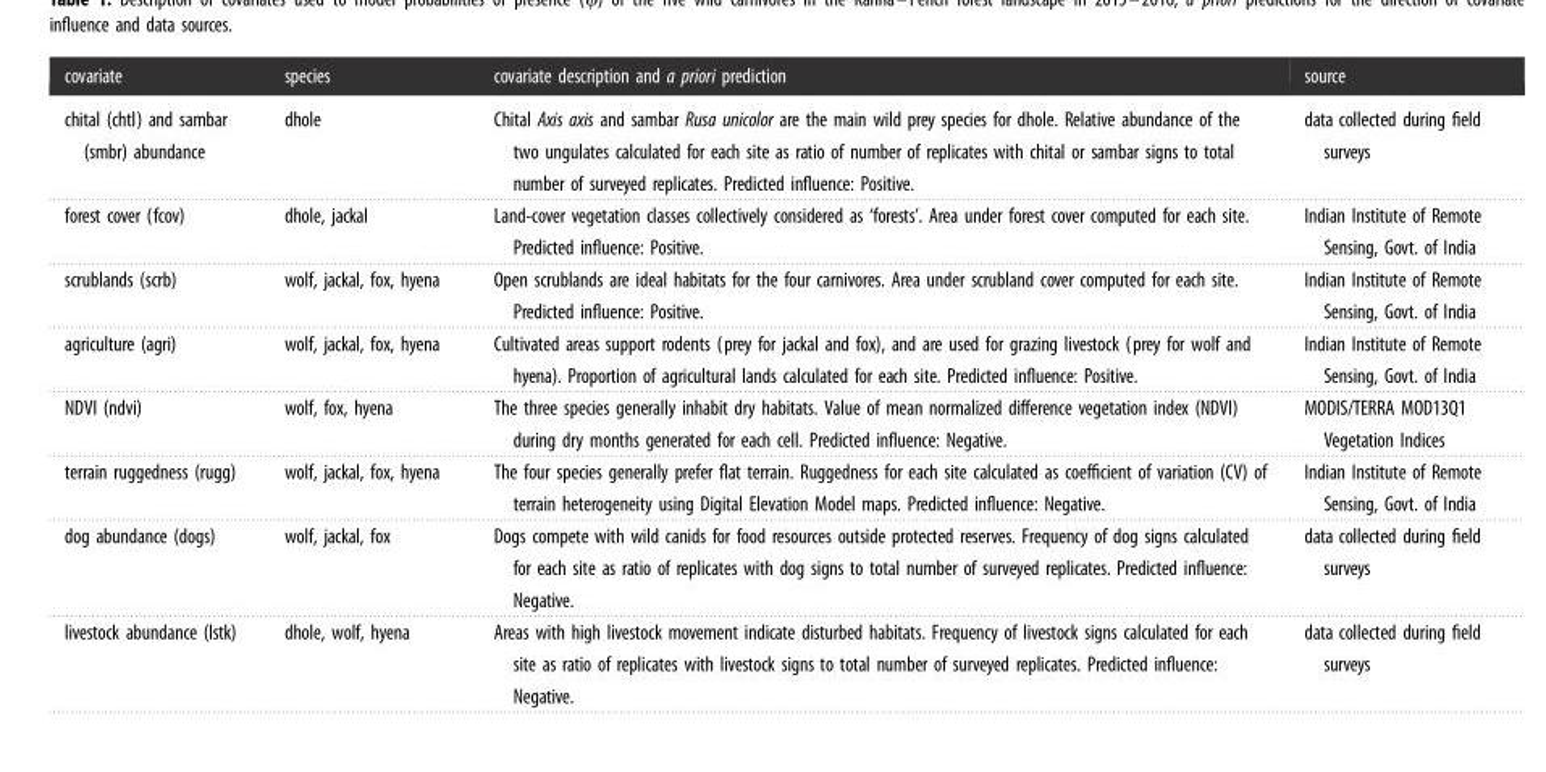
<table><thead><tr><td>covariate</td><td>species</td><td>covariate description and a priori prediction</td><td>source</td></tr></thead><tbody><tr><td>chital (chtl) and sambar (smbr) abundance</td><td>dhole</td><td>Chital Axis axis and sambar Rusa unicolor are the main wild prey species for dhole. Relative abundance of the two ungulates calculated for each site as ratio of number of replicates with chital or sambar signs to total number of surveyed replicates. Predicted influence: Positive.</td><td>data collected during field surveys</td></tr><tr><td>forest cover (fcov)</td><td>dhole, jackal</td><td>Land-cover vegetation classes collectively considered as ‘forests’. Area under forest cover computed for each site. Predicted influence: Positive.</td><td>Indian Institute of Remote Sensing, Govt. of India</td></tr><tr><td>scrublands (scrb)</td><td>wolf, jackal, fox, hyena</td><td>Open scrublands are ideal habitats for the four carnivores. Area under scrubland cover computed for each site. Predicted influence: Positive.</td><td>Indian Institute of Remote Sensing, Govt. of India</td></tr><tr><td>agriculture (agri)</td><td>wolf, jackal, fox, hyena</td><td>Cultivated areas support rodents (prey for jackal and fox), and are used for grazing livestock (prey for wolf and hyena). Proportion of agricultural lands calculated for each site. Predicted influence: Positive.</td><td>Indian Institute of Remote Sensing, Govt. of India</td></tr><tr><td>NDVI (ndvi)</td><td>wolf, fox, hyena</td><td>The three species generally inhabit dry habitats. Value of mean normalized difference vegetation index (NDVI) during dry months generated for each cell. Predicted influence: Negative.</td><td>MODIS/TERRA MOD13Q1 Vegetation Indices</td></tr><tr><td>terrain ruggedness (rugg)</td><td>wolf, jackal, fox, hyena</td><td>The four species generally prefer flat terrain. Ruggedness for each site calculated as coefficient of variation (CV) of terrain heterogeneity using Digital Elevation Model maps. Predicted influence: Negative.</td><td>Indian Institute of Remote Sensing, Govt. of India</td></tr><tr><td>dog abundance (dogs)</td><td>wolf, jackal, fox</td><td>Dogs compete with wild canids for food resources outside protected reserves. Frequency of dog signs calculated for each site as ratio of replicates with dog signs to total number of surveyed replicates. Predicted influence: Negative.</td><td>data collected during field surveys</td></tr><tr><td>livestock abundance (lstk)</td><td>dhole, wolf, hyena</td><td>Areas with high livestock movement indicate disturbed habitats. Frequency of livestock signs calculated for each site as ratio of replicates with livestock signs to total number of surveyed replicates. Predicted influence: Negative.</td><td>data collected during field surveys</td></tr></tbody></table>